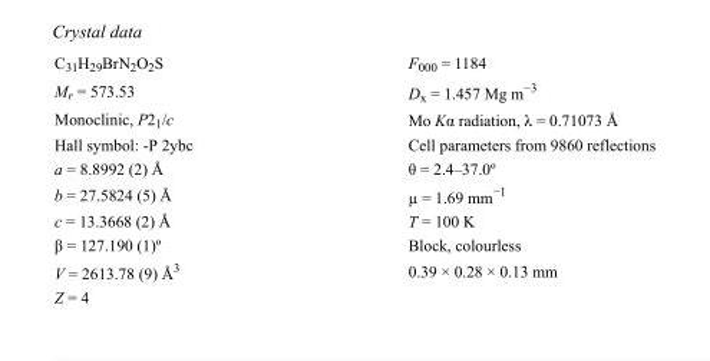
<table><tbody><tr><td>C<sub>31</sub>H<sub>29</sub>BrN<sub>2</sub>O<sub>2</sub>S</td><td>F000 = 1184</td></tr><tr><td>M<sub>r</sub> = 573.53</td><td>D<sub>x</sub> = 1.457 Mg m<sup>−3</sup></td></tr><tr><td>Monoclinic, P2<sub>1</sub>/c</td><td>Mo Kα radiation, λ = 0.71073 Å</td></tr><tr><td>Hall symbol: -P 2ybc</td><td>Cell parameters from 9860 reflections</td></tr><tr><td>a = 8.8992 (2) Å</td><td>θ = 2.4–37.0º</td></tr><tr><td>b = 27.5824 (5) Å</td><td>µ = 1.69 mm<sup>−1</sup></td></tr><tr><td>c = 13.3668 (2) Å</td><td>T = 100 K</td></tr><tr><td>β = 127.190 (1)º</td><td>Block, colourless</td></tr><tr><td>V = 2613.78 (9) Å<sup>3</sup></td><td>0.39 × 0.28 × 0.13 mm</td></tr><tr><td>Z = 4</td><td></td></tr></tbody></table>